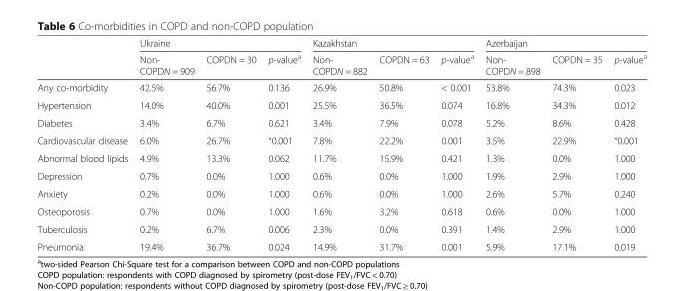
<table><thead><tr><td rowspan="2"></td><td colspan="3">Ukraine</td><td colspan="3">Kazakhstan</td><td colspan="3">Azerbaijan</td></tr><tr><td>Non- COPDN = 909</td><td>COPDN = 30</td><td>p-value<sup>a</sup></td><td>Non- COPDN = 882</td><td>COPDN = 63</td><td>p-value<sup>a</sup></td><td>Non- COPDN = 898</td><td>COPDN = 35</td><td>p-value<sup>a</sup></td></tr></thead><tbody><tr><td>Any co-morbidity</td><td>42.5%</td><td>56.7%</td><td>0.136</td><td>26.9%</td><td>50.8%</td><td>&lt; 0.001</td><td>53.8%</td><td>74.3%</td><td>0.023</td></tr><tr><td>Hypertension</td><td>14.0%</td><td>40.0%</td><td>0.001</td><td>25.5%</td><td>36.5%</td><td>0.074</td><td>16.8%</td><td>34.3%</td><td>0.012</td></tr><tr><td>Diabetes</td><td>3.4%</td><td>6.7%</td><td>0.621</td><td>3.4%</td><td>7.9%</td><td>0.078</td><td>5.2%</td><td>8.6%</td><td>0.428</td></tr><tr><td>Cardiovascular disease</td><td>6.0%</td><td>26.7%</td><td>˂0.001</td><td>7.8%</td><td>22.2%</td><td>0.001</td><td>3.5%</td><td>22.9%</td><td>˂0.001</td></tr><tr><td>Abnormal blood lipids</td><td>4.9%</td><td>13.3%</td><td>0.062</td><td>11.7%</td><td>15.9%</td><td>0.421</td><td>1.3%</td><td>0.0%</td><td>1.000</td></tr><tr><td>Depression</td><td>0.7%</td><td>0.0%</td><td>1.000</td><td>0.6%</td><td>0.0%</td><td>1.000</td><td>1.9%</td><td>2.9%</td><td>1.000</td></tr><tr><td>Anxiety</td><td>0.2%</td><td>0.0%</td><td>1.000</td><td>0.6%</td><td>0.0%</td><td>1.000</td><td>2.6%</td><td>5.7%</td><td>0.240</td></tr><tr><td>Osteoporosis</td><td>0.7%</td><td>0.0%</td><td>1.000</td><td>1.6%</td><td>3.2%</td><td>0.618</td><td>0.6%</td><td>0.0%</td><td>1.000</td></tr><tr><td>Tuberculosis</td><td>0.2%</td><td>6.7%</td><td>0.006</td><td>2.3%</td><td>0.0%</td><td>0.391</td><td>1.4%</td><td>2.9%</td><td>1.000</td></tr><tr><td>Pneumonia</td><td>19.4%</td><td>36.7%</td><td>0.024</td><td>14.9%</td><td>31.7%</td><td>0.001</td><td>5.9%</td><td>17.1%</td><td>0.019</td></tr></tbody></table>